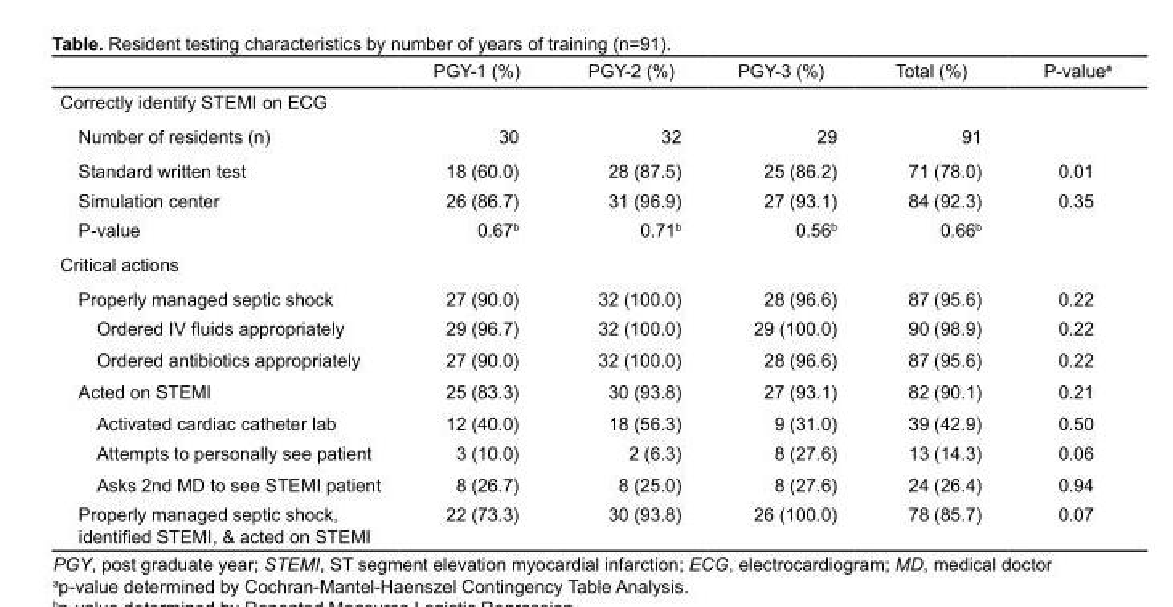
<table><thead><tr><td></td><td>PGY-1 (%)</td><td>PGY-2 (%)</td><td>PGY-3 (%)</td><td>Total (%)</td><td>P-value<sup>a</sup></td></tr></thead><tbody><tr><td colspan="6">Correctly identify STEMI on ECG</td></tr><tr><td>Number of residents (n)</td><td>30</td><td>32</td><td>29</td><td>91</td><td></td></tr><tr><td>Standard written test</td><td>18 (60.0)</td><td>28 (87.5)</td><td>25 (86.2)</td><td>71 (78.0)</td><td>0.01</td></tr><tr><td>Simulation center</td><td>26 (86.7)</td><td>31 (96.9)</td><td>27 (93.1)</td><td>84 (92.3)</td><td>0.35</td></tr><tr><td>P-value</td><td>0.67<sup>b</sup></td><td>0.71<sup>b</sup></td><td>0.56<sup>b</sup></td><td>0.66<sup>b</sup></td><td></td></tr><tr><td colspan="6">Critical actions</td></tr><tr><td>Properly managed septic shock</td><td>27 (90.0)</td><td>32 (100.0)</td><td>28 (96.6)</td><td>87 (95.6)</td><td>0.22</td></tr><tr><td>Ordered IV fluids appropriately</td><td>29 (96.7)</td><td>32 (100.0)</td><td>29 (100.0)</td><td>90 (98.9)</td><td>0.22</td></tr><tr><td>Ordered antibiotics appropriately</td><td>27 (90.0)</td><td>32 (100.0)</td><td>28 (96.6)</td><td>87 (95.6)</td><td>0.22</td></tr><tr><td>Acted on STEMI</td><td>25 (83.3)</td><td>30 (93.8)</td><td>27 (93.1)</td><td>82 (90.1)</td><td>0.21</td></tr><tr><td>Activated cardiac catheter lab</td><td>12 (40.0)</td><td>18 (56.3)</td><td>9 (31.0)</td><td>39 (42.9)</td><td>0.50</td></tr><tr><td>Attempts to personally see patient</td><td>3 (10.0)</td><td>2 (6.3)</td><td>8 (27.6)</td><td>13 (14.3)</td><td>0.06</td></tr><tr><td>Asks 2nd MD to see STEMI patient</td><td>8 (26.7)</td><td>8 (25.0)</td><td>8 (27.6)</td><td>24 (26.4)</td><td>0.94</td></tr><tr><td>Properly managed septic shock, identified STEMI, &amp; acted on STEMI</td><td>22 (73.3)</td><td>30 (93.8)</td><td>26 (100.0)</td><td>78 (85.7)</td><td>0.07</td></tr></tbody></table>